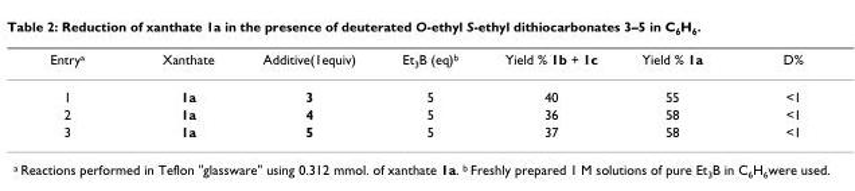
<table><thead><tr><td>Entry<sup>a</sup></td><td>Xanthate</td><td>Additive(1equiv)</td><td>Et<sub>3</sub>B (eq)<sup>b</sup></td><td>Yield % 1b + 1c</td><td>Yield % 1a</td><td>D%</td></tr></thead><tbody><tr><td>1</td><td>1a</td><td>3</td><td>5</td><td>40</td><td>55</td><td>&lt;1</td></tr><tr><td>2</td><td>1a</td><td>4</td><td>5</td><td>36</td><td>58</td><td>&lt;1</td></tr><tr><td>3</td><td>1a</td><td>5</td><td>5</td><td>37</td><td>58</td><td>&lt;1</td></tr></tbody></table>